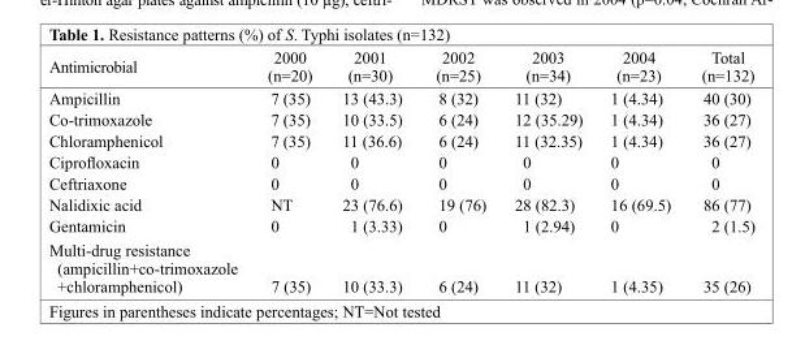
<table><thead><tr><td>Antimicrobial</td><td>2000 (n=20)</td><td>2001 (n=30)</td><td>2002 (n=25)</td><td>2003 (n=34)</td><td>2004 (n=23)</td><td>Total (n=132)</td></tr></thead><tbody><tr><td>Ampicillin</td><td>7 (35)</td><td>13 (43.3)</td><td>8 (32)</td><td>11 (32)</td><td>1 (4.34)</td><td>40 (30)</td></tr><tr><td>Co-trimoxazole</td><td>7 (35)</td><td>10 (33.5)</td><td>6 (24)</td><td>12 (35.29)</td><td>1 (4.34)</td><td>36 (27)</td></tr><tr><td>Chloramphenicol</td><td>7 (35)</td><td>11 (36.6)</td><td>6 (24)</td><td>11 (32.35)</td><td>1 (4.34)</td><td>36 (27)</td></tr><tr><td>Ciprofloxacin</td><td>0</td><td>0</td><td>0</td><td>0</td><td>0</td><td>0</td></tr><tr><td>Ceftriaxone</td><td>0</td><td>0</td><td>0</td><td>0</td><td>0</td><td>0</td></tr><tr><td>Nalidixic acid</td><td>NT</td><td>23 (76.6)</td><td>19 (76)</td><td>28 (82.3)</td><td>16 (69.5)</td><td>86 (77)</td></tr><tr><td>Gentamicin</td><td>0</td><td>1 (3.33)</td><td>0</td><td>1 (2.94)</td><td>0</td><td>2 (1.5)</td></tr><tr><td>Multi-drug resistance (ampicillin+co-trimoxazole +chloramphenicol)</td><td>7 (35)</td><td>10 (33.3)</td><td>6 (24)</td><td>11 (32)</td><td>1 (4.35)</td><td>35 (26)</td></tr></tbody></table>